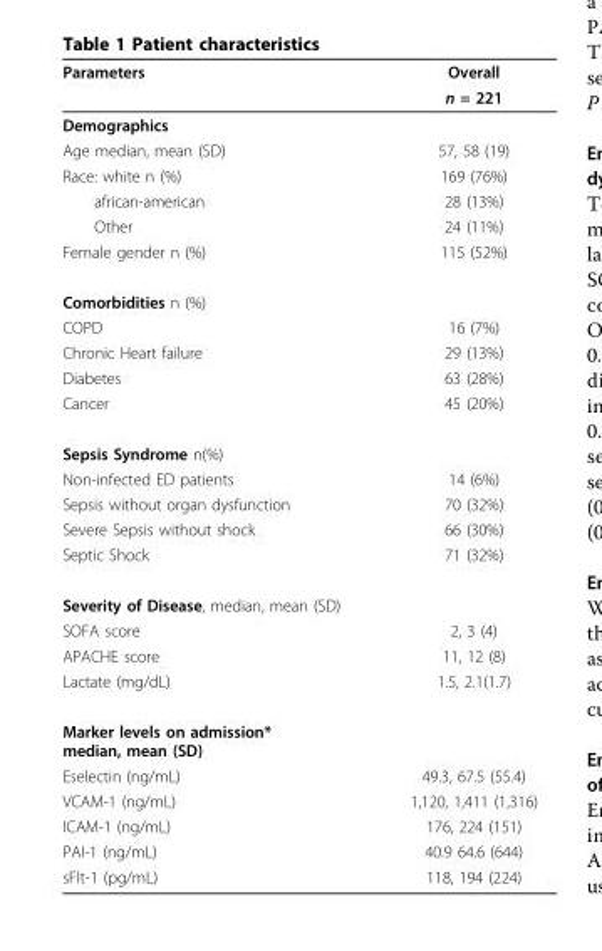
<table><thead><tr><td rowspan="2">Parameters</td><td rowspan="2">Overall n = 221</td></tr><tr></tr></thead><tbody><tr><td colspan="2">Demographics</td></tr><tr><td>Age median, mean (SD)</td><td>57, 58 (19)</td></tr><tr><td>Race: white n (%)</td><td>169 (76%)</td></tr><tr><td>african-american</td><td>28 (13%)</td></tr><tr><td>Other</td><td>24 (11%)</td></tr><tr><td>Female gender n (%)</td><td>115 (52%)</td></tr><tr><td colspan="2">Comorbidities n (%)</td></tr><tr><td>COPD</td><td>16 (7%)</td></tr><tr><td>Chronic Heart failure</td><td>29 (13%)</td></tr><tr><td>Diabetes</td><td>63 (28%)</td></tr><tr><td>Cancer</td><td>45 (20%)</td></tr><tr><td colspan="2">Sepsis Syndrome n(%)</td></tr><tr><td>Non-infected ED patients</td><td>14 (6%)</td></tr><tr><td>Sepsis without organ dysfunction</td><td>70 (32%)</td></tr><tr><td>Severe Sepsis without shock</td><td>66 (30%)</td></tr><tr><td>Septic Shock</td><td>71 (32%)</td></tr><tr><td colspan="2">Severity of Disease, median, mean (SD)</td></tr><tr><td>SOFA score</td><td>2, 3 (4)</td></tr><tr><td>APACHE score</td><td>11, 12 (8)</td></tr><tr><td>Lactate (mg/dL)</td><td>1.5, 2.1(1.7)</td></tr><tr><td colspan="2">Marker levels on admission* median, mean (SD)</td></tr><tr><td>Eselectin (ng/mL)</td><td>49.3, 67.5 (55.4)</td></tr><tr><td>VCAM-1 (ng/mL)</td><td>1,120, 1,411 (1,316)</td></tr><tr><td>ICAM-1 (ng/mL)</td><td>176, 224 (151)</td></tr><tr><td>PAI-1 (ng/mL)</td><td>40.9 64.6 (644)</td></tr><tr><td>sFlt-1 (pg/mL)</td><td>118, 194 (224)</td></tr></tbody></table>